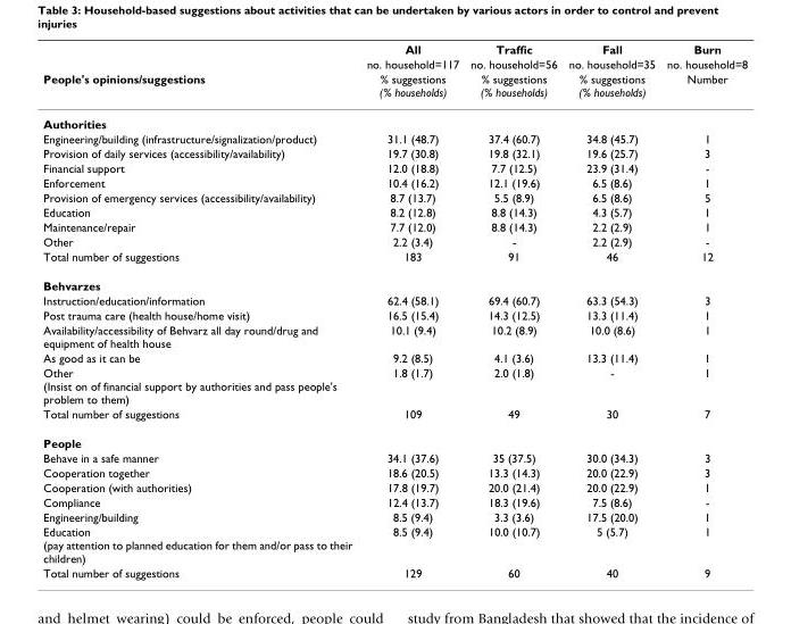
<table><thead><tr><td rowspan="3">People&#x27;s opinions/suggestions</td><td rowspan="3">All no. household=117 % suggestions (% households)</td><td rowspan="3">Traffic no. household=56 % suggestions (% households)</td><td rowspan="3">Fall no. household=35 % suggestions (% households)</td><td rowspan="3">Burn no. household=8 Number</td></tr><tr></tr><tr></tr></thead><tbody><tr><td colspan="5">Authorities</td></tr><tr><td>Engineering/building (infrastructure/signalization/product)</td><td>31.1 (48.7)</td><td>37.4 (60.7)</td><td>34.8 (45.7)</td><td>1</td></tr><tr><td>Provision of daily services (accessibility/availability)</td><td>19.7 (30.8)</td><td>19.8 (32.1)</td><td>19.6 (25.7)</td><td>3</td></tr><tr><td>Financial support</td><td>12.0 (18.8)</td><td>7.7 (12.5)</td><td>23.9 (31.4)</td><td>-</td></tr><tr><td>Enforcement</td><td>10.4 (16.2)</td><td>12.1 (19.6)</td><td>6.5 (8.6)</td><td>1</td></tr><tr><td>Provision of emergency services (accessibility/availability)</td><td>8.7 (13.7)</td><td>5.5 (8.9)</td><td>6.5 (8.6)</td><td>5</td></tr><tr><td>Education</td><td>8.2 (12.8)</td><td>8.8 (14.3)</td><td>4.3 (5.7)</td><td>1</td></tr><tr><td>Maintenance/repair</td><td>7.7 (12.0)</td><td>8.8 (14.3)</td><td>2.2 (2.9)</td><td>1</td></tr><tr><td>Other</td><td>2.2 (3.4)</td><td>-</td><td>2.2 (2.9)</td><td>-</td></tr><tr><td>Total number of suggestions</td><td>183</td><td>91</td><td>46</td><td>12</td></tr><tr><td colspan="5">Behvarzes</td></tr><tr><td>Instruction/education/information</td><td>62.4 (58.1)</td><td>69.4 (60.7)</td><td>63.3 (54.3)</td><td>3</td></tr><tr><td>Post trauma care (health house/home visit)</td><td>16.5 (15.4)</td><td>14.3 (12.5)</td><td>13.3 (11.4)</td><td>1</td></tr><tr><td>Availability/accessibility of Behvarz all day round/drug and equipment of health house</td><td>10.1 (9.4)</td><td>10.2 (8.9)</td><td>10.0 (8.6)</td><td>1</td></tr><tr><td>As good as it can be</td><td>9.2 (8.5)</td><td>4.1 (3.6)</td><td>13.3 (11.4)</td><td>1</td></tr><tr><td>Other (Insist on of financial support by authorities and pass people&#x27;s problem to them)</td><td>1.8 (1.7)</td><td>2.0 (1.8)</td><td>-</td><td>1</td></tr><tr><td>Total number of suggestions</td><td>109</td><td>49</td><td>30</td><td>7</td></tr><tr><td colspan="5">People</td></tr><tr><td>Behave in a safe manner</td><td>34.1 (37.6)</td><td>35 (37.5)</td><td>30.0 (34.3)</td><td>3</td></tr><tr><td>Cooperation together</td><td>18.6 (20.5)</td><td>13.3 (14.3)</td><td>20.0 (22.9)</td><td>3</td></tr><tr><td>Cooperation (with authorities)</td><td>17.8 (19.7)</td><td>20.0 (21.4)</td><td>20.0 (22.9)</td><td>1</td></tr><tr><td>Compliance</td><td>12.4 (13.7)</td><td>18.3 (19.6)</td><td>7.5 (8.6)</td><td>-</td></tr><tr><td>Engineering/building</td><td>8.5 (9.4)</td><td>3.3 (3.6)</td><td>17.5 (20.0)</td><td>1</td></tr><tr><td>Education (pay attention to planned education for them and/or pass to their children)</td><td>8.5 (9.4)</td><td>10.0 (10.7)</td><td>5 (5.7)</td><td>1</td></tr><tr><td>Total number of suggestions</td><td>129</td><td>60</td><td>40</td><td>9</td></tr></tbody></table>